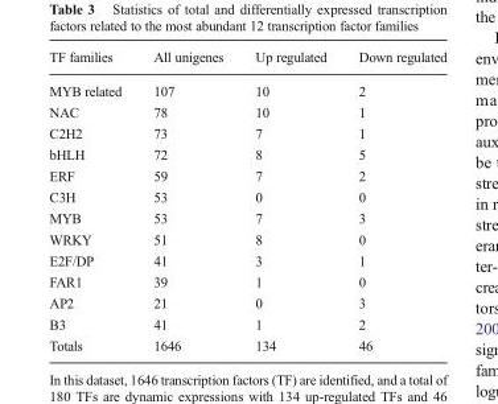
<table><thead><tr><td>TF families</td><td>All unigenes</td><td>Up regulated</td><td>Down regulated</td></tr></thead><tbody><tr><td>MYB related</td><td>107</td><td>10</td><td>2</td></tr><tr><td>NAC</td><td>78</td><td>10</td><td>1</td></tr><tr><td>C2H2</td><td>73</td><td>7</td><td>1</td></tr><tr><td>bHLH</td><td>72</td><td>8</td><td>5</td></tr><tr><td>ERF</td><td>59</td><td>7</td><td>2</td></tr><tr><td>C3H</td><td>53</td><td>0</td><td>0</td></tr><tr><td>MYB</td><td>53</td><td>7</td><td>3</td></tr><tr><td>WRKY</td><td>51</td><td>8</td><td>0</td></tr><tr><td>E2F/DP</td><td>41</td><td>3</td><td>1</td></tr><tr><td>FAR1</td><td>39</td><td>1</td><td>0</td></tr><tr><td>AP2</td><td>21</td><td>0</td><td>3</td></tr><tr><td>B3</td><td>41</td><td>1</td><td>2</td></tr><tr><td>Totals</td><td>1646</td><td>134</td><td>46</td></tr></tbody></table>